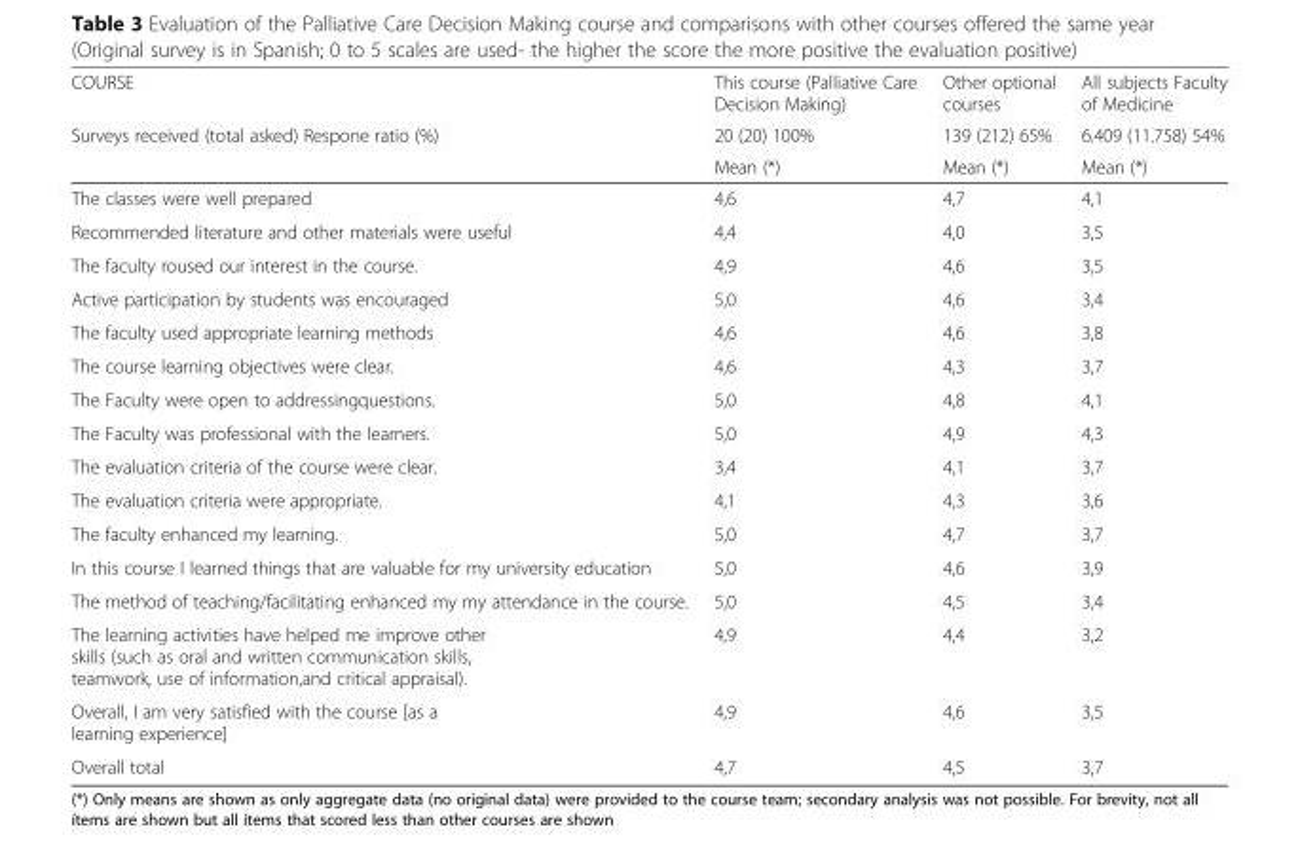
<table><thead><tr><td rowspan="3">COURSE Surveys received (total asked) Respone ratio (%)</td><td rowspan="3">This course (Palliative Care Decision Making) 20 (20) 100% Mean (*)</td><td rowspan="3">Other optional courses 139 (212) 65% Mean (*)</td><td rowspan="3">All subjects Faculty of Medicine 6.409 (11.758) 54% Mean (*)</td></tr><tr></tr><tr></tr></thead><tbody><tr><td>The classes were well prepared</td><td>4,6</td><td>4,7</td><td>4,1</td></tr><tr><td>Recommended literature and other materials were useful</td><td>4,4</td><td>4,0</td><td>3,5</td></tr><tr><td>The faculty roused our interest in the course.</td><td>4,9</td><td>4,6</td><td>3,5</td></tr><tr><td>Active participation by students was encouraged</td><td>5,0</td><td>4,6</td><td>3,4</td></tr><tr><td>The faculty used appropriate learning methods</td><td>4,6</td><td>4,6</td><td>3,8</td></tr><tr><td>The course learning objectives were clear.</td><td>4,6</td><td>4,3</td><td>3,7</td></tr><tr><td>The Faculty were open to addressingquestions.</td><td>5,0</td><td>4,8</td><td>4,1</td></tr><tr><td>The Faculty was professional with the learners.</td><td>5,0</td><td>4,9</td><td>4,3</td></tr><tr><td>The evaluation criteria of the course were clear.</td><td>3,4</td><td>4,1</td><td>3,7</td></tr><tr><td>The evaluation criteria were appropriate.</td><td>4,1</td><td>4,3</td><td>3,6</td></tr><tr><td>The faculty enhanced my learning.</td><td>5,0</td><td>4,7</td><td>3,7</td></tr><tr><td>In this course I learned things that are valuable for my university education</td><td>5,0</td><td>4,6</td><td>3,9</td></tr><tr><td>The method of teaching/facilitating enhanced my my attendance in the course.</td><td>5,0</td><td>4,5</td><td>3,4</td></tr><tr><td>The learning activities have helped me improve other skills (such as oral and written communication skills, teamwork, use of information,and critical appraisal).</td><td>4,9</td><td>4,4</td><td>3,2</td></tr><tr><td>Overall, I am very satisfied with the course [as a learning experience]</td><td>4,9</td><td>4,6</td><td>3,5</td></tr><tr><td>Overall total</td><td>4,7</td><td>4,5</td><td>3,7</td></tr></tbody></table>